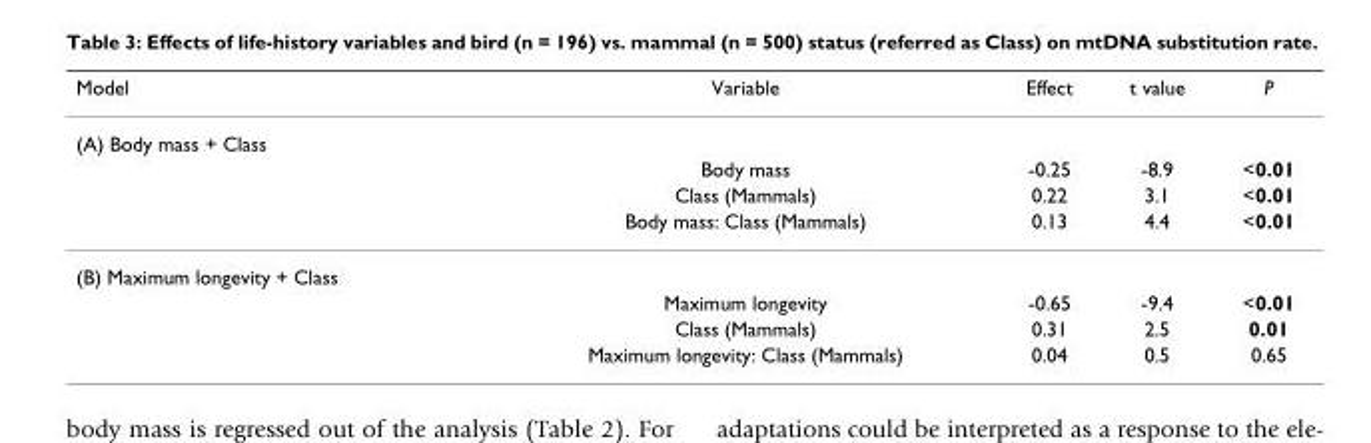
<table><thead><tr><td>Model</td><td>Variable</td><td>Effect</td><td>t value</td><td>P</td></tr></thead><tbody><tr><td colspan="5">(A) Body mass + Class</td></tr><tr><td></td><td>Body mass</td><td>-0.25</td><td>-8.9</td><td>&lt;0.01</td></tr><tr><td></td><td>Class (Mammals)</td><td>0.22</td><td>3.1</td><td>&lt;0.01</td></tr><tr><td></td><td>Body mass: Class (Mammals)</td><td>0.13</td><td>4.4</td><td>&lt;0.01</td></tr><tr><td colspan="5">(B) Maximum longevity + Class</td></tr><tr><td></td><td>Maximum longevity</td><td>-0.65</td><td>-9.4</td><td>&lt;0.01</td></tr><tr><td></td><td>Class (Mammals)</td><td>0.31</td><td>2.5</td><td>0.01</td></tr><tr><td></td><td>Maximum longevity: Class (Mammals)</td><td>0.04</td><td>0.5</td><td>0.65</td></tr></tbody></table>